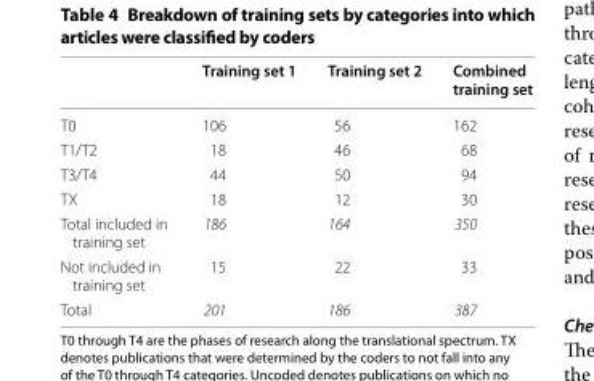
<table><thead><tr><td></td><td>Training set 1</td><td>Training set 2</td><td>Combined training set</td></tr></thead><tbody><tr><td>T0</td><td>106</td><td>56</td><td>162</td></tr><tr><td>T1/T2</td><td>18</td><td>46</td><td>68</td></tr><tr><td>T3/T4</td><td>44</td><td>50</td><td>94</td></tr><tr><td>TX</td><td>18</td><td>12</td><td>30</td></tr><tr><td>Total included in training set</td><td>186</td><td>164</td><td>350</td></tr><tr><td>Not included in training set</td><td>15</td><td>22</td><td>33</td></tr><tr><td>Total</td><td>201</td><td>186</td><td>387</td></tr></tbody></table>